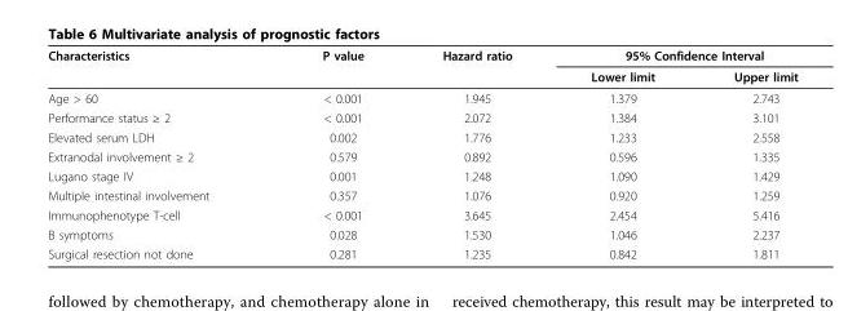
<table><thead><tr><td rowspan="2">Characteristics</td><td rowspan="2">P value</td><td rowspan="2">Hazard ratio</td><td colspan="2">95% Confidence Interval</td></tr><tr><td>Lower limit</td><td>Upper limit</td></tr></thead><tbody><tr><td>Age &gt; 60</td><td>&lt; 0.001</td><td>1.945</td><td>1.379</td><td>2.743</td></tr><tr><td>Performance status ≥ 2</td><td>&lt; 0.001</td><td>2.072</td><td>1.384</td><td>3.101</td></tr><tr><td>Elevated serum LDH</td><td>0.002</td><td>1.776</td><td>1.233</td><td>2.558</td></tr><tr><td>Extranodal involvement ≥ 2</td><td>0.579</td><td>0.892</td><td>0.596</td><td>1.335</td></tr><tr><td>Lugano stage IV</td><td>0.001</td><td>1.248</td><td>1.090</td><td>1.429</td></tr><tr><td>Multiple intestinal involvement</td><td>0.357</td><td>1.076</td><td>0.920</td><td>1.259</td></tr><tr><td>Immunophenotype T-cell</td><td>&lt; 0.001</td><td>3.645</td><td>2.454</td><td>5.416</td></tr><tr><td>B symptoms</td><td>0.028</td><td>1.530</td><td>1.046</td><td>2.237</td></tr><tr><td>Surgical resection not done</td><td>0.281</td><td>1.235</td><td>0.842</td><td>1.811</td></tr></tbody></table>